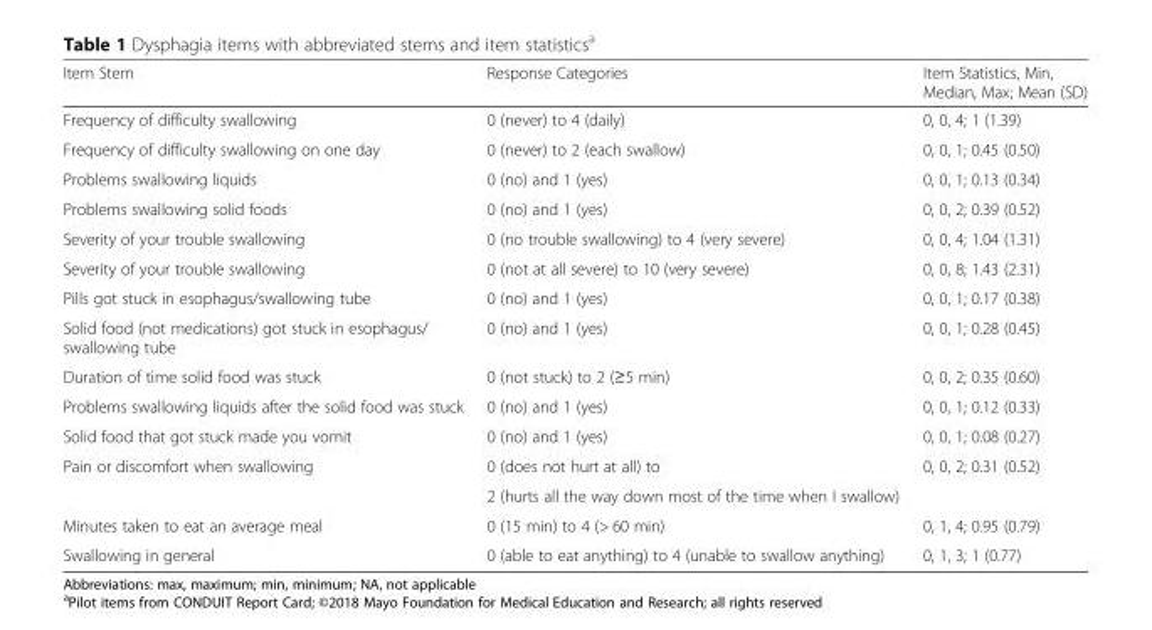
<table><thead><tr><td>Item Stem</td><td>Response Categories</td><td>Item Statistics, Min, Median, Max; Mean (SD)</td></tr></thead><tbody><tr><td>Frequency of difficulty swallowing</td><td>0 (never) to 4 (daily)</td><td>0, 0, 4; 1 (1.39)</td></tr><tr><td>Frequency of difficulty swallowing on one day</td><td>0 (never) to 2 (each swallow)</td><td>0, 0, 1; 0.45 (0.50)</td></tr><tr><td>Problems swallowing liquids</td><td>0 (no) and 1 (yes)</td><td>0, 0, 1; 0.13 (0.34)</td></tr><tr><td>Problems swallowing solid foods</td><td>0 (no) and 1 (yes)</td><td>0, 0, 2; 0.39 (0.52)</td></tr><tr><td>Severity of your trouble swallowing</td><td>0 (no trouble swallowing) to 4 (very severe)</td><td>0, 0, 4; 1.04 (1.31)</td></tr><tr><td>Severity of your trouble swallowing</td><td>0 (not at all severe) to 10 (very severe)</td><td>0, 0, 8; 1.43 (2.31)</td></tr><tr><td>Pills got stuck in esophagus/swallowing tube</td><td>0 (no) and 1 (yes)</td><td>0, 0, 1; 0.17 (0.38)</td></tr><tr><td>Solid food (not medications) got stuck in esophagus/ swallowing tube</td><td>0 (no) and 1 (yes)</td><td>0, 0, 1; 0.28 (0.45)</td></tr><tr><td>Duration of time solid food was stuck</td><td>0 (not stuck) to 2 (≥5 min)</td><td>0, 0, 2; 0.35 (0.60)</td></tr><tr><td>Problems swallowing liquids after the solid food was stuck</td><td>0 (no) and 1 (yes)</td><td>0, 0, 1; 0.12 (0.33)</td></tr><tr><td>Solid food that got stuck made you vomit</td><td>0 (no) and 1 (yes)</td><td>0, 0, 1; 0.08 (0.27)</td></tr><tr><td rowspan="2">Pain or discomfort when swallowing</td><td>0 (does not hurt at all) to</td><td rowspan="2">0, 0, 2; 0.31 (0.52)</td></tr><tr><td>2 (hurts all the way down most of the time when I swallow)</td></tr><tr><td>Minutes taken to eat an average meal</td><td>0 (15 min) to 4 (&gt; 60 min)</td><td>0, 1, 4; 0.95 (0.79)</td></tr><tr><td>Swallowing in general</td><td>0 (able to eat anything) to 4 (unable to swallow anything)</td><td>0, 1, 3; 1 (0.77)</td></tr></tbody></table>